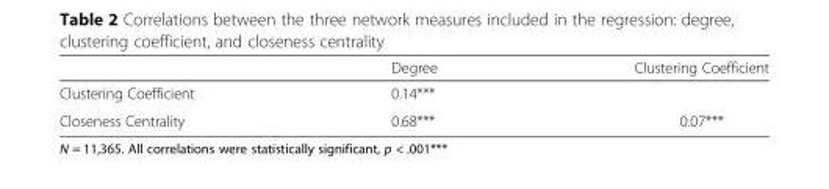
<table><thead><tr><td></td><td>Degree</td><td>Clustering Coefficient</td></tr></thead><tbody><tr><td>Clustering Coefficient</td><td>0.14***</td><td></td></tr><tr><td>Closeness Centrality</td><td>0.68***</td><td>0.07***</td></tr></tbody></table>